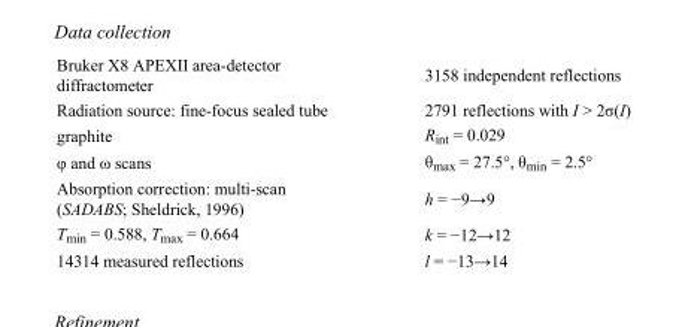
<table><tbody><tr><td>Bruker X8 APEXII area-detector diffractometer</td><td>3158 independent reflections</td></tr><tr><td>Radiation source: fine-focus sealed tube</td><td>2791 reflections with I &gt; 2σ(I)</td></tr><tr><td>graphite</td><td>R<sub>int</sub> = 0.029</td></tr><tr><td>φ and ω scans</td><td>θ<sub>max</sub> = 27.5°, θ<sub>min</sub> = 2.5°</td></tr><tr><td>Absorption correction: multi-scan (SADABS; Sheldrick, 1996)</td><td>h = −9→9</td></tr><tr><td>T<sub>min</sub> = 0.588, T<sub>max</sub> = 0.664</td><td>k = −12→12</td></tr><tr><td>14314 measured reflections</td><td>l = −13→14</td></tr></tbody></table>